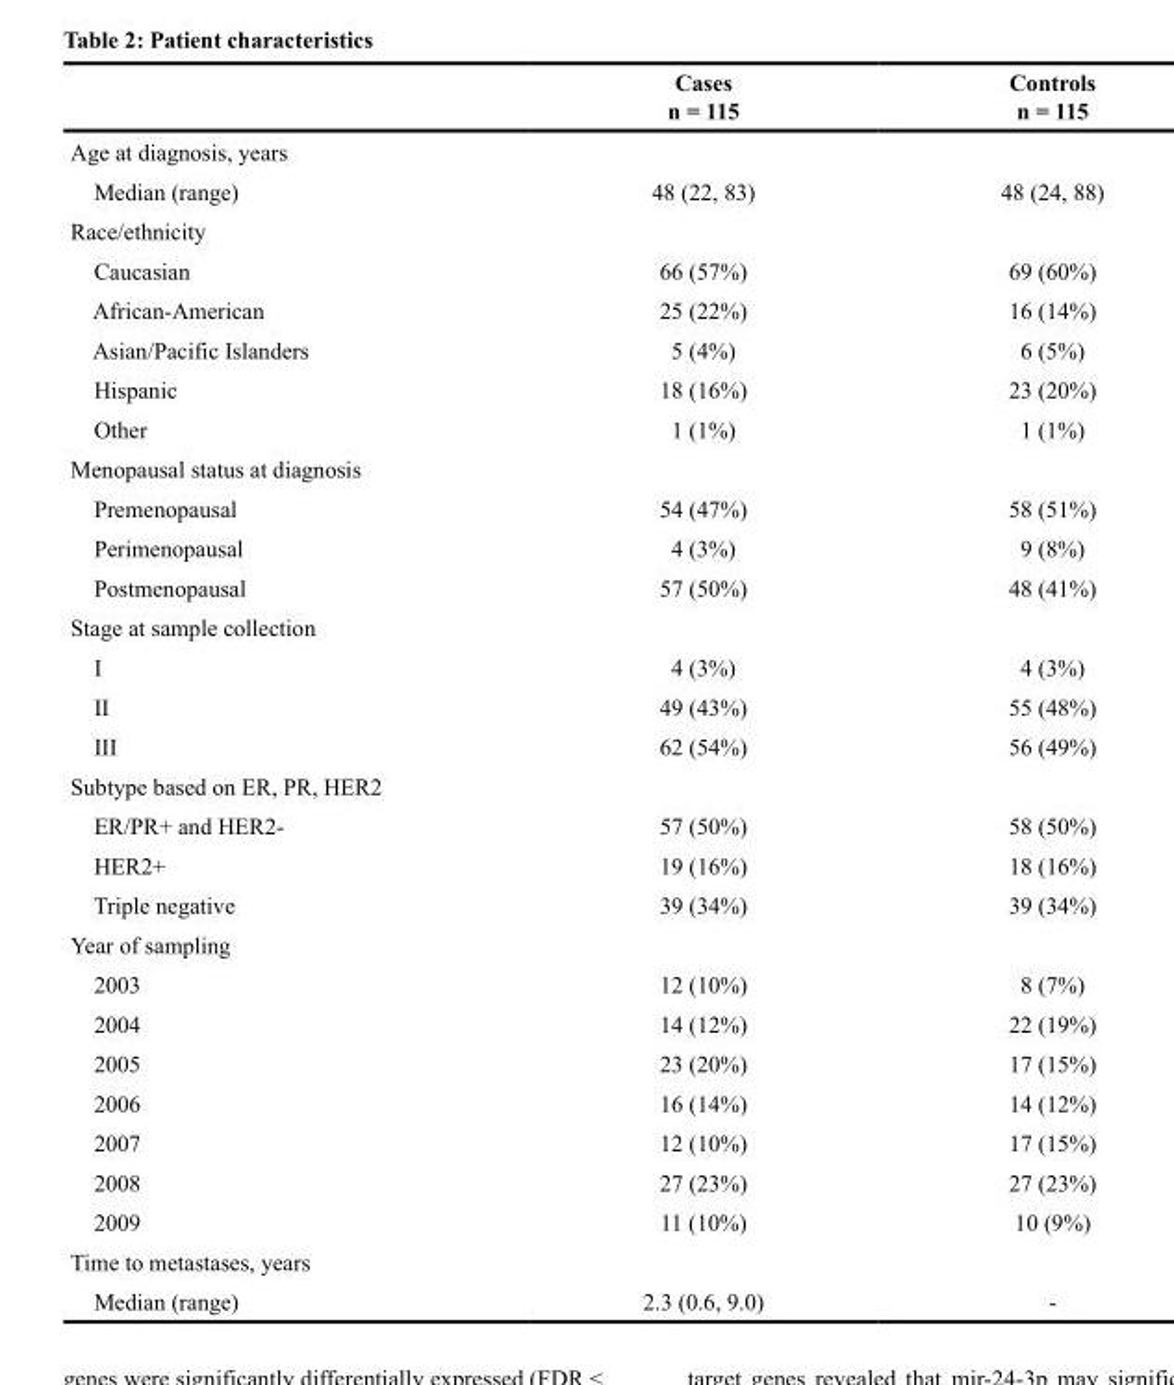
<table><thead><tr><td></td><td>Cases n = 115</td><td>Controls n = 115</td></tr></thead><tbody><tr><td colspan="3">Age at diagnosis, years</td></tr><tr><td>Median (range)</td><td>48 (22, 83)</td><td>48 (24, 88)</td></tr><tr><td colspan="3">Race/ethnicity</td></tr><tr><td>Caucasian</td><td>66 (57%)</td><td>69 (60%)</td></tr><tr><td>African-American</td><td>25 (22%)</td><td>16 (14%)</td></tr><tr><td>Asian/Pacific Islanders</td><td>5 (4%)</td><td>6 (5%)</td></tr><tr><td>Hispanic</td><td>18 (16%)</td><td>23 (20%)</td></tr><tr><td>Other</td><td>1 (1%)</td><td>1 (1%)</td></tr><tr><td colspan="3">Menopausal status at diagnosis</td></tr><tr><td>Premenopausal</td><td>54 (47%)</td><td>58 (51%)</td></tr><tr><td>Perimenopausal</td><td>4 (3%)</td><td>9 (8%)</td></tr><tr><td>Postmenopausal</td><td>57 (50%)</td><td>48 (41%)</td></tr><tr><td colspan="3">Stage at sample collection</td></tr><tr><td>I</td><td>4 (3%)</td><td>4 (3%)</td></tr><tr><td>II</td><td>49 (43%)</td><td>55 (48%)</td></tr><tr><td>III</td><td>62 (54%)</td><td>56 (49%)</td></tr><tr><td colspan="3">Subtype based on ER, PR, HER2</td></tr><tr><td>ER/PR+ and HER2-</td><td>57 (50%)</td><td>58 (50%)</td></tr><tr><td>HER2+</td><td>19 (16%)</td><td>18 (16%)</td></tr><tr><td>Triple negative</td><td>39 (34%)</td><td>39 (34%)</td></tr><tr><td colspan="3">Year of sampling</td></tr><tr><td>2003</td><td>12 (10%)</td><td>8 (7%)</td></tr><tr><td>2004</td><td>14 (12%)</td><td>22 (19%)</td></tr><tr><td>2005</td><td>23 (20%)</td><td>17 (15%)</td></tr><tr><td>2006</td><td>16 (14%)</td><td>14 (12%)</td></tr><tr><td>2007</td><td>12 (10%)</td><td>17 (15%)</td></tr><tr><td>2008</td><td>27 (23%)</td><td>27 (23%)</td></tr><tr><td>2009</td><td>11 (10%)</td><td>10 (9%)</td></tr><tr><td colspan="3">Time to metastases, years</td></tr><tr><td>Median (range)</td><td>2.3 (0.6, 9.0)</td><td>-</td></tr></tbody></table>